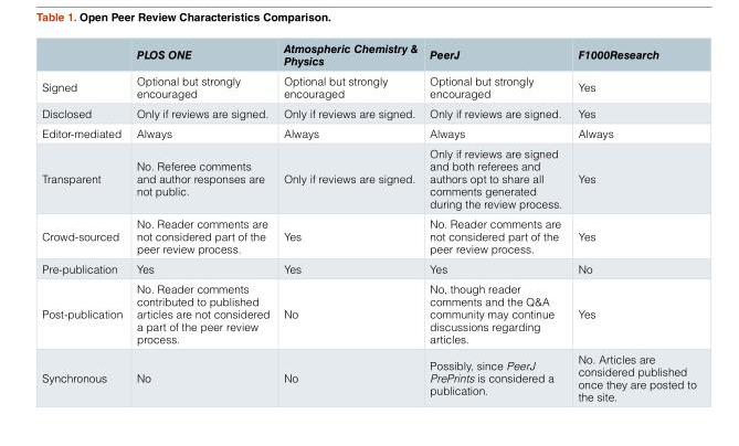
<table><thead><tr><td></td><td>PLOS ONE</td><td>Atmospheric Chemistry &amp; Physics</td><td>PeerJ</td><td>F1000Research</td></tr></thead><tbody><tr><td>Signed</td><td>Optional but strongly encouraged</td><td>Optional but strongly encouraged</td><td>Optional but strongly encouraged</td><td>Yes</td></tr><tr><td>Disclosed</td><td>Only if reviews are signed.</td><td>Only if reviews are signed.</td><td>Only if reviews are signed.</td><td>Yes</td></tr><tr><td>Editor-mediated</td><td>Always</td><td>Always</td><td>Always</td><td>Always</td></tr><tr><td>Transparent</td><td>No. Referee comments and author responses are not public.</td><td>Only if reviews are signed.</td><td>Only if reviews are signed and both referees and authors opt to share all comments generated during the review process.</td><td>Yes</td></tr><tr><td>Crowd-sourced</td><td>No. Reader comments are not considered part of the peer review process.</td><td>Yes</td><td>No. Reader comments are not considered part of the peer review process.</td><td>Yes</td></tr><tr><td>Pre-publication</td><td>Yes</td><td>Yes</td><td>Yes</td><td>No</td></tr><tr><td>Post-publication</td><td>No. Reader comments contributed to published articles are not considered a part of the peer review process.</td><td>No</td><td>No, though reader comments and the Q&amp;A community may continue discussions regarding articles.</td><td>Yes</td></tr><tr><td>Synchronous</td><td>No</td><td>No</td><td>Possibly, since PeerJ PrePrints is considered a publication.</td><td>No. Articles are considered published once they are posted to the site.</td></tr></tbody></table>